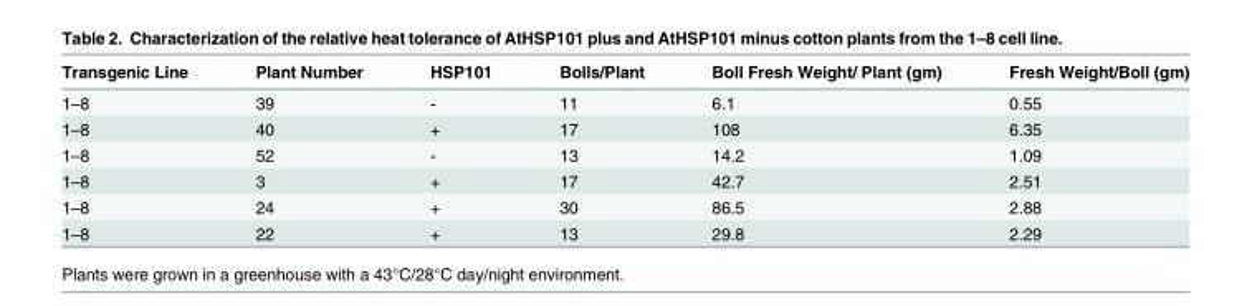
<table><thead><tr><td>Transgenic Line</td><td>Plant Number</td><td>HSP101</td><td>Bolls/Plant</td><td>Boll Fresh Weight/ Plant (gm)</td><td>Fresh Weight/Boll (gm)</td></tr></thead><tbody><tr><td>1–8</td><td>39</td><td>-</td><td>11</td><td>6.1</td><td>0.55</td></tr><tr><td>1–8</td><td>40</td><td>+</td><td>17</td><td>108</td><td>6.35</td></tr><tr><td>1–8</td><td>52</td><td>-</td><td>13</td><td>14.2</td><td>1.09</td></tr><tr><td>1–8</td><td>3</td><td>+</td><td>17</td><td>42.7</td><td>2.51</td></tr><tr><td>1–8</td><td>24</td><td>+</td><td>30</td><td>86.5</td><td>2.88</td></tr><tr><td>1–8</td><td>22</td><td>+</td><td>13</td><td>29.8</td><td>2.29</td></tr></tbody></table>